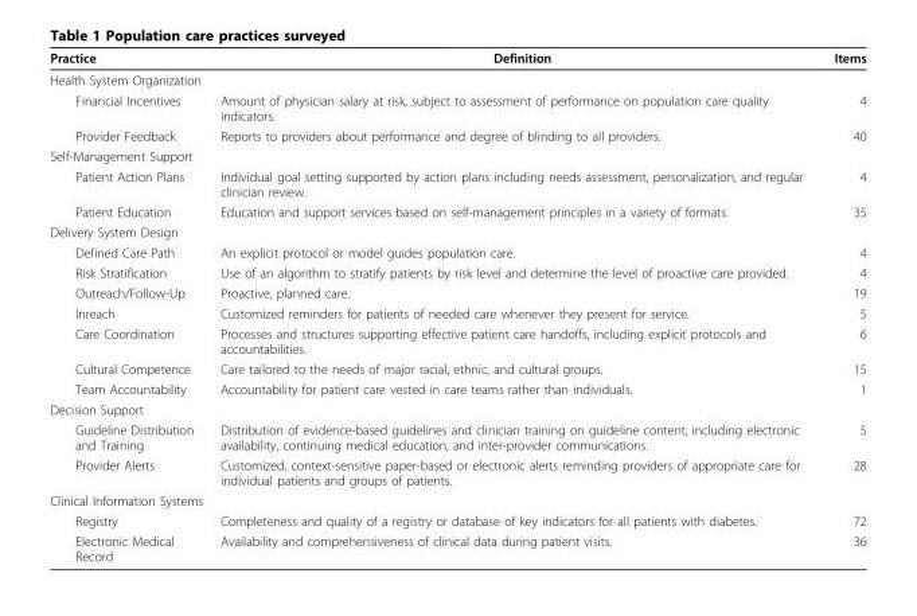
<table><thead><tr><td>Practice</td><td>Definition</td><td>Items</td></tr></thead><tbody><tr><td colspan="3">Health System Organization</td></tr><tr><td>Financial Incentives</td><td>Amount of physician salary at risk, subject to assessment of performance on population care quality indicators.</td><td>4</td></tr><tr><td>Provider Feedback</td><td>Reports to providers about performance and degree of blinding to all providers.</td><td>40</td></tr><tr><td colspan="3">Self-Management Support</td></tr><tr><td>Patient Action Plans</td><td>Individual goal setting supported by action plans including needs assessment, personalization, and regular clinician review.</td><td>4</td></tr><tr><td>Patient Education</td><td>Education and support services based on self-management principles in a variety of formats.</td><td>35</td></tr><tr><td colspan="3">Delivery System Design</td></tr><tr><td>Defined Care Path</td><td>An explicit protocol or model guides population care.</td><td>4</td></tr><tr><td>Risk Stratification</td><td>Use of an algorithm to stratify patients by risk level and determine the level of proactive care provided.</td><td>4</td></tr><tr><td>Outreach/Follow-Up</td><td>Proactive, planned care.</td><td>19</td></tr><tr><td>Inreach</td><td>Customized reminders for patients of needed care whenever they present for service.</td><td>5</td></tr><tr><td>Care Coordination</td><td>Processes and structures supporting effective patient care handoffs, including explicit protocols and accountabilities.</td><td>6</td></tr><tr><td>Cultural Competence</td><td>Care tailored to the needs of major racial, ethnic, and cultural groups.</td><td>15</td></tr><tr><td>Team Accountability</td><td>Accountability for patient care vested in care teams rather than individuals.</td><td>1</td></tr><tr><td colspan="3">Decision Support</td></tr><tr><td>Guideline Distribution and Training</td><td>Distribution of evidence-based guidelines and clinician training on guideline content, including electronic availability, continuing medical education, and inter-provider communications.</td><td>5</td></tr><tr><td>Provider Alerts</td><td>Customized, context-sensitive paper-based or electronic alerts reminding providers of appropriate care for individual patients and groups of patients.</td><td>28</td></tr><tr><td colspan="3">Clinical Information Systems</td></tr><tr><td>Registry</td><td>Completeness and quality of a registry or database of key indicators for all patients with diabetes.</td><td>72</td></tr><tr><td>Electronic Medical Record</td><td>Availability and comprehensiveness of clinical data during patient visits.</td><td>36</td></tr></tbody></table>